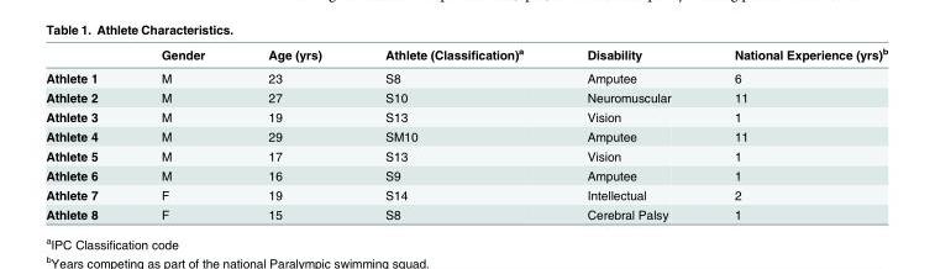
<table><thead><tr><td></td><td>Gender</td><td>Age (yrs)</td><td>Athlete (Classification)<sup>a</sup></td><td>Disability</td><td>National Experience (yrs)<sup>b</sup></td></tr></thead><tbody><tr><td>Athlete 1</td><td>M</td><td>23</td><td>S8</td><td>Amputee</td><td>6</td></tr><tr><td>Athlete 2</td><td>M</td><td>27</td><td>S10</td><td>Neuromuscular</td><td>11</td></tr><tr><td>Athlete 3</td><td>M</td><td>19</td><td>S13</td><td>Vision</td><td>1</td></tr><tr><td>Athlete 4</td><td>M</td><td>29</td><td>SM10</td><td>Amputee</td><td>11</td></tr><tr><td>Athlete 5</td><td>M</td><td>17</td><td>S13</td><td>Vision</td><td>1</td></tr><tr><td>Athlete 6</td><td>M</td><td>16</td><td>S9</td><td>Amputee</td><td>1</td></tr><tr><td>Athlete 7</td><td>F</td><td>19</td><td>S14</td><td>Intellectual</td><td>2</td></tr><tr><td>Athlete 8</td><td>F</td><td>15</td><td>S8</td><td>Cerebral Palsy</td><td>1</td></tr></tbody></table>